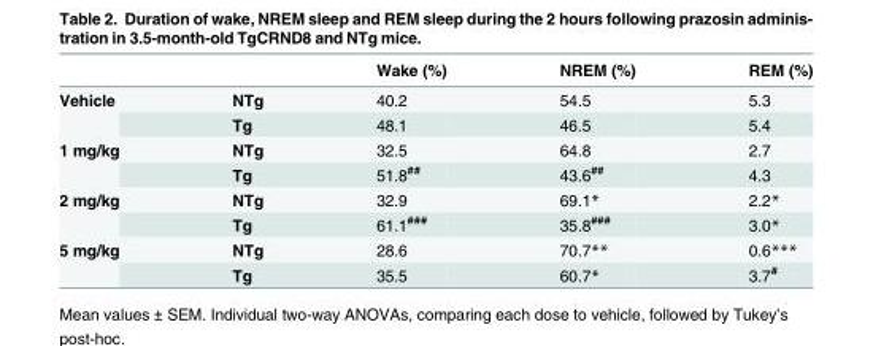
<table><thead><tr><td></td><td></td><td>Wake (%)</td><td>NREM (%)</td><td>REM (%)</td></tr></thead><tbody><tr><td rowspan="2">Vehicle</td><td>NTg</td><td>40.2</td><td>54.5</td><td>5.3</td></tr><tr><td>Tg</td><td>48.1</td><td>46.5</td><td>5.4</td></tr><tr><td rowspan="2">1 mg/kg</td><td>NTg</td><td>32.5</td><td>64.8</td><td>2.7</td></tr><tr><td>Tg</td><td>51.8<sup>##</sup></td><td>43.6<sup>##</sup></td><td>4.3</td></tr><tr><td rowspan="2">2 mg/kg</td><td>NTg</td><td>32.9</td><td>69.1*</td><td>2.2*</td></tr><tr><td>Tg</td><td>61.1<sup>###</sup></td><td>35.8<sup>###</sup></td><td>3.0*</td></tr><tr><td rowspan="2">5 mg/kg</td><td>NTg</td><td>28.6</td><td>70.7**</td><td>0.6***</td></tr><tr><td>Tg</td><td>35.5</td><td>60.7*</td><td>3.7<sup>#</sup></td></tr></tbody></table>